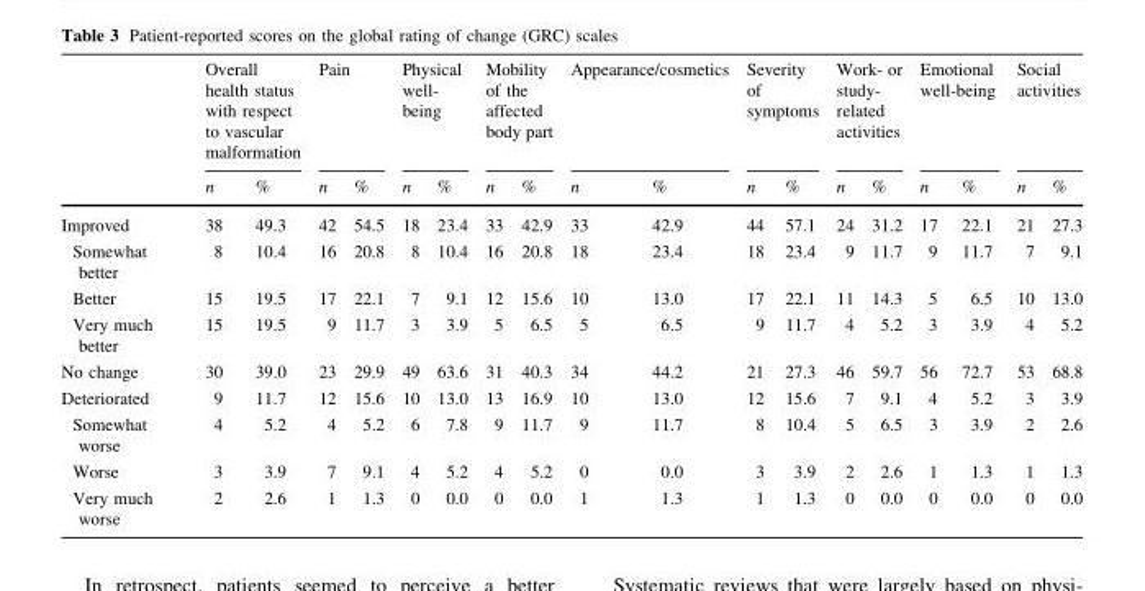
<table><thead><tr><td rowspan="2"></td><td colspan="2">Overall health status with respect to vascular malformation</td><td colspan="2">Pain</td><td colspan="2">Physical well- being</td><td colspan="2">Mobility of the affected body part</td><td colspan="2">Appearance/cosmetics</td><td colspan="2">Severity of symptoms</td><td colspan="2">Work- or study- related activities</td><td colspan="2">Emotional well-being</td><td colspan="2">Social activities</td></tr><tr><td>n</td><td>%</td><td>n</td><td>%</td><td>n</td><td>%</td><td>n</td><td>%</td><td>n</td><td>%</td><td>n</td><td>%</td><td>n</td><td>%</td><td>n</td><td>%</td><td>n</td><td>%</td></tr></thead><tbody><tr><td>Improved</td><td>38</td><td>49.3</td><td>42</td><td>54.5</td><td>18</td><td>23.4</td><td>33</td><td>42.9</td><td>33</td><td>42.9</td><td>44</td><td>57.1</td><td>24</td><td>31.2</td><td>17</td><td>22.1</td><td>21</td><td>27.3</td></tr><tr><td>Somewhat better</td><td>8</td><td>10.4</td><td>16</td><td>20.8</td><td>8</td><td>10.4</td><td>16</td><td>20.8</td><td>18</td><td>23.4</td><td>18</td><td>23.4</td><td>9</td><td>11.7</td><td>9</td><td>11.7</td><td>7</td><td>9.1</td></tr><tr><td>Better</td><td>15</td><td>19.5</td><td>17</td><td>22.1</td><td>7</td><td>9.1</td><td>12</td><td>15.6</td><td>10</td><td>13.0</td><td>17</td><td>22.1</td><td>11</td><td>14.3</td><td>5</td><td>6.5</td><td>10</td><td>13.0</td></tr><tr><td>Very much better</td><td>15</td><td>19.5</td><td>9</td><td>11.7</td><td>3</td><td>3.9</td><td>5</td><td>6.5</td><td>5</td><td>6.5</td><td>9</td><td>11.7</td><td>4</td><td>5.2</td><td>3</td><td>3.9</td><td>4</td><td>5.2</td></tr><tr><td>No change</td><td>30</td><td>39.0</td><td>23</td><td>29.9</td><td>49</td><td>63.6</td><td>31</td><td>40.3</td><td>34</td><td>44.2</td><td>21</td><td>27.3</td><td>46</td><td>59.7</td><td>56</td><td>72.7</td><td>53</td><td>68.8</td></tr><tr><td>Deteriorated</td><td>9</td><td>11.7</td><td>12</td><td>15.6</td><td>10</td><td>13.0</td><td>13</td><td>16.9</td><td>10</td><td>13.0</td><td>12</td><td>15.6</td><td>7</td><td>9.1</td><td>4</td><td>5.2</td><td>3</td><td>3.9</td></tr><tr><td>Somewhat worse</td><td>4</td><td>5.2</td><td>4</td><td>5.2</td><td>6</td><td>7.8</td><td>9</td><td>11.7</td><td>9</td><td>11.7</td><td>8</td><td>10.4</td><td>5</td><td>6.5</td><td>3</td><td>3.9</td><td>2</td><td>2.6</td></tr><tr><td>Worse</td><td>3</td><td>3.9</td><td>7</td><td>9.1</td><td>4</td><td>5.2</td><td>4</td><td>5.2</td><td>0</td><td>0.0</td><td>3</td><td>3.9</td><td>2</td><td>2.6</td><td>1</td><td>1.3</td><td>1</td><td>1.3</td></tr><tr><td>Very much worse</td><td>2</td><td>2.6</td><td>1</td><td>1.3</td><td>0</td><td>0.0</td><td>0</td><td>0.0</td><td>1</td><td>1.3</td><td>1</td><td>1.3</td><td>0</td><td>0.0</td><td>0</td><td>0.0</td><td>0</td><td>0.0</td></tr></tbody></table>